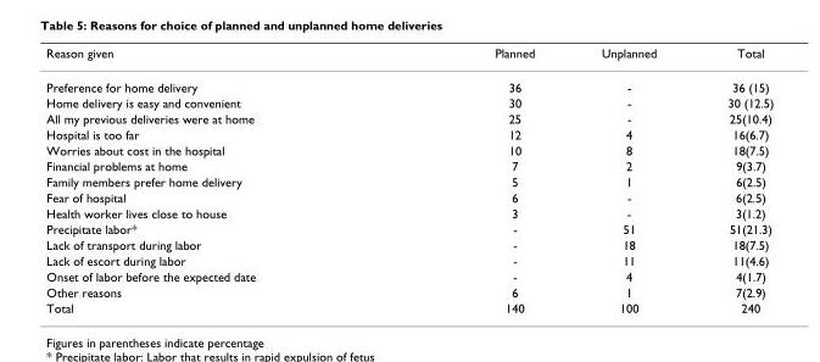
<table><thead><tr><td>Reason given</td><td>Planned</td><td>Unplanned</td><td>Total</td></tr></thead><tbody><tr><td>Preference for home delivery</td><td>36</td><td>-</td><td>36 (15)</td></tr><tr><td>Home delivery is easy and convenient</td><td>30</td><td>-</td><td>30 (12.5)</td></tr><tr><td>All my previous deliveries were at home</td><td>25</td><td>-</td><td>25(10.4)</td></tr><tr><td>Hospital is too far</td><td>12</td><td>4</td><td>16(6.7)</td></tr><tr><td>Worries about cost in the hospital</td><td>10</td><td>8</td><td>18(7.5)</td></tr><tr><td>Financial problems at home</td><td>7</td><td>2</td><td>9(3.7)</td></tr><tr><td>Family members prefer home delivery</td><td>5</td><td>1</td><td>6(2.5)</td></tr><tr><td>Fear of hospital</td><td>6</td><td>-</td><td>6(2.5)</td></tr><tr><td>Health worker lives close to house</td><td>3</td><td>-</td><td>3(1.2)</td></tr><tr><td>Precipitate labor*</td><td>-</td><td>51</td><td>51(21.3)</td></tr><tr><td>Lack of transport during labor</td><td>-</td><td>18</td><td>18(7.5)</td></tr><tr><td>Lack of escort during labor</td><td>-</td><td>11</td><td>11(4.6)</td></tr><tr><td>Onset of labor before the expected date</td><td>-</td><td>4</td><td>4(1.7)</td></tr><tr><td>Other reasons</td><td>6</td><td>1</td><td>7(2.9)</td></tr><tr><td>Total</td><td>140</td><td>100</td><td>240</td></tr></tbody></table>